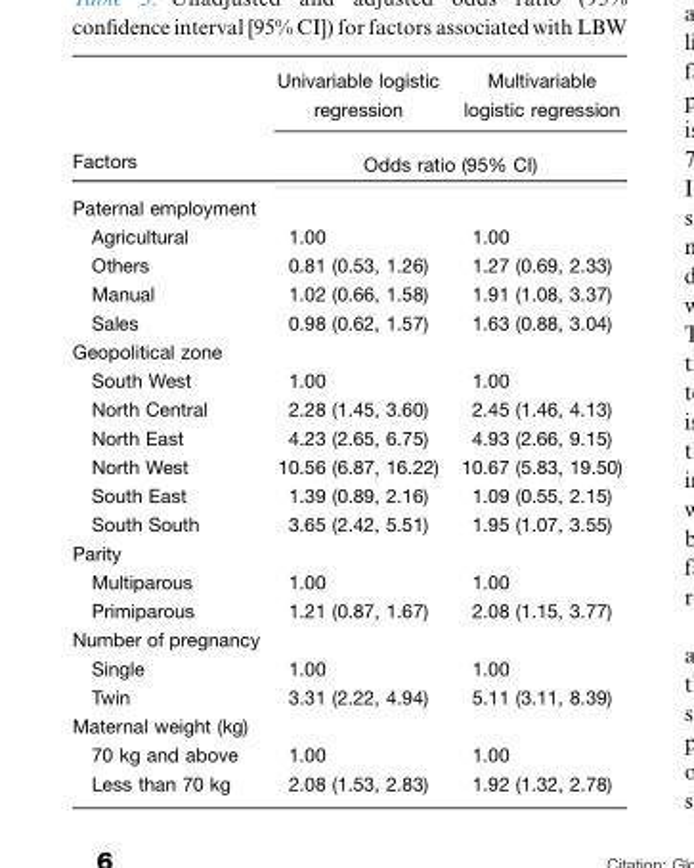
<table><thead><tr><td rowspan="2">Factors</td><td>Univariable logistic regression</td><td>Multivariable logistic regression</td></tr><tr><td colspan="2">Odds ratio (95% CI)</td></tr></thead><tbody><tr><td colspan="3">Paternal employment</td></tr><tr><td>Agricultural</td><td>1.00</td><td>1.00</td></tr><tr><td>Others</td><td>0.81 (0.53, 1.26)</td><td>1.27 (0.69, 2.33)</td></tr><tr><td>Manual</td><td>1.02 (0.66, 1.58)</td><td>1.91 (1.08, 3.37)</td></tr><tr><td>Sales</td><td>0.98 (0.62, 1.57)</td><td>1.63 (0.88, 3.04)</td></tr><tr><td colspan="3">Geopolitical zone</td></tr><tr><td>South West</td><td>1.00</td><td>1.00</td></tr><tr><td>North Central</td><td>2.28 (1.45, 3.60)</td><td>2.45 (1.46, 4.13)</td></tr><tr><td>North East</td><td>4.23 (2.65, 6.75)</td><td>4.93 (2.66, 9.15)</td></tr><tr><td>North West</td><td>10.56 (6.87, 16.22)</td><td>10.67 (5.83, 19.50)</td></tr><tr><td>South East</td><td>1.39 (0.89, 2.16)</td><td>1.09 (0.55, 2.15)</td></tr><tr><td>South South</td><td>3.65 (2.42, 5.51)</td><td>1.95 (1.07, 3.55)</td></tr><tr><td colspan="3">Parity</td></tr><tr><td>Multiparous</td><td>1.00</td><td>1.00</td></tr><tr><td>Primiparous</td><td>1.21 (0.87, 1.67)</td><td>2.08 (1.15, 3.77)</td></tr><tr><td colspan="3">Number of pregnancy</td></tr><tr><td>Single</td><td>1.00</td><td>1.00</td></tr><tr><td>Twin</td><td>3.31 (2.22, 4.94)</td><td>5.11 (3.11, 8.39)</td></tr><tr><td colspan="3">Maternal weight (kg)</td></tr><tr><td>70 kg and above</td><td>1.00</td><td>1.00</td></tr><tr><td>Less than 70 kg</td><td>2.08 (1.53, 2.83)</td><td>1.92 (1.32, 2.78)</td></tr></tbody></table>